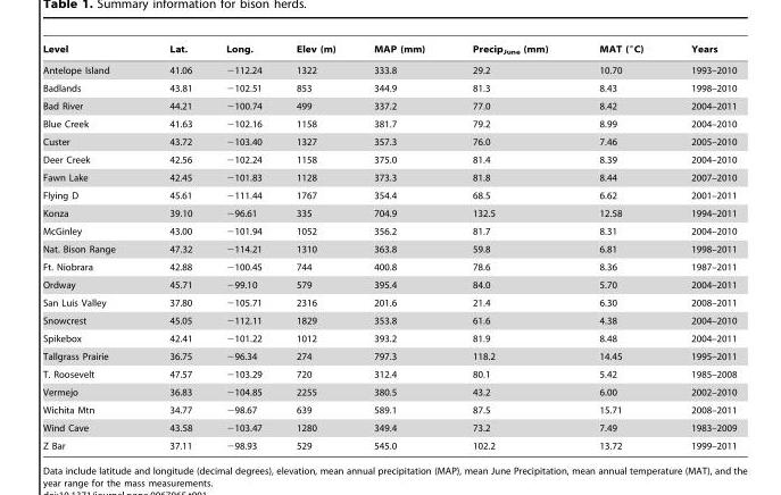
<table><thead><tr><td>Level</td><td>Lat.</td><td>Long.</td><td>Elev (m)</td><td>MAP (mm)</td><td>Precip<sub>June</sub> (mm)</td><td>MAT (°C)</td><td>Years</td></tr></thead><tbody><tr><td>Antelope Island</td><td>41.06</td><td>−112.24</td><td>1322</td><td>333.8</td><td>29.2</td><td>10.70</td><td>1993–2010</td></tr><tr><td>Badlands</td><td>43.81</td><td>−102.51</td><td>853</td><td>344.9</td><td>81.3</td><td>8.43</td><td>1998–2010</td></tr><tr><td>Bad River</td><td>44.21</td><td>−100.74</td><td>499</td><td>337.2</td><td>77.0</td><td>8.42</td><td>2004–2011</td></tr><tr><td>Blue Creek</td><td>41.63</td><td>−102.16</td><td>1158</td><td>381.7</td><td>79.2</td><td>8.99</td><td>2004–2010</td></tr><tr><td>Custer</td><td>43.72</td><td>−103.40</td><td>1327</td><td>357.3</td><td>76.0</td><td>7.46</td><td>2005–2010</td></tr><tr><td>Deer Creek</td><td>42.56</td><td>−102.24</td><td>1158</td><td>375.0</td><td>81.4</td><td>8.39</td><td>2004–2010</td></tr><tr><td>Fawn Lake</td><td>42.45</td><td>−101.83</td><td>1128</td><td>373.3</td><td>81.8</td><td>8.44</td><td>2007–2010</td></tr><tr><td>Flying D</td><td>45.61</td><td>−111.44</td><td>1767</td><td>354.4</td><td>68.5</td><td>6.62</td><td>2001–2011</td></tr><tr><td>Konza</td><td>39.10</td><td>−96.61</td><td>335</td><td>704.9</td><td>132.5</td><td>12.58</td><td>1994–2011</td></tr><tr><td>McGinley</td><td>43.00</td><td>−101.94</td><td>1052</td><td>356.2</td><td>81.7</td><td>8.31</td><td>2004–2010</td></tr><tr><td>Nat. Bison Range</td><td>47.32</td><td>−114.21</td><td>1310</td><td>363.8</td><td>59.8</td><td>6.81</td><td>1998–2011</td></tr><tr><td>Ft. Niobrara</td><td>42.88</td><td>−100.45</td><td>744</td><td>400.8</td><td>78.6</td><td>8.36</td><td>1987–2011</td></tr><tr><td>Ordway</td><td>45.71</td><td>−99.10</td><td>579</td><td>395.4</td><td>84.0</td><td>5.70</td><td>2004–2011</td></tr><tr><td>San Luis Valley</td><td>37.80</td><td>−105.71</td><td>2316</td><td>201.6</td><td>21.4</td><td>6.30</td><td>2008–2011</td></tr><tr><td>Snowcrest</td><td>45.05</td><td>−112.11</td><td>1829</td><td>353.8</td><td>61.6</td><td>4.38</td><td>2004–2010</td></tr><tr><td>Spikebox</td><td>42.41</td><td>−101.22</td><td>1012</td><td>393.2</td><td>81.9</td><td>8.48</td><td>2004–2011</td></tr><tr><td>Tallgrass Prairie</td><td>36.75</td><td>−96.34</td><td>274</td><td>797.3</td><td>118.2</td><td>14.45</td><td>1995–2011</td></tr><tr><td>T. Roosevelt</td><td>47.57</td><td>−103.29</td><td>720</td><td>312.4</td><td>80.1</td><td>5.42</td><td>1985–2008</td></tr><tr><td>Vermejo</td><td>36.83</td><td>−104.85</td><td>2255</td><td>380.5</td><td>43.2</td><td>6.00</td><td>2002–2010</td></tr><tr><td>Wichita Mtn</td><td>34.77</td><td>−98.67</td><td>639</td><td>589.1</td><td>87.5</td><td>15.71</td><td>2008–2011</td></tr><tr><td>Wind Cave</td><td>43.58</td><td>−103.47</td><td>1280</td><td>349.4</td><td>73.2</td><td>7.49</td><td>1983–2009</td></tr><tr><td>Z Bar</td><td>37.11</td><td>−98.93</td><td>529</td><td>545.0</td><td>102.2</td><td>13.72</td><td>1999–2011</td></tr></tbody></table>